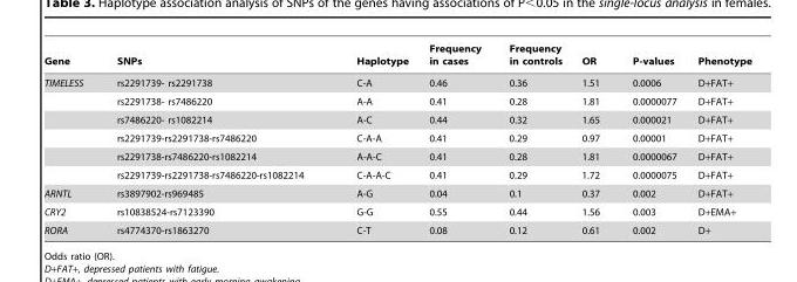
<table><thead><tr><td>Gene</td><td>SNPs</td><td>Haplotype</td><td>Frequency in cases</td><td>Frequency in controls</td><td>OR</td><td>P-values</td><td>Phenotype</td></tr></thead><tbody><tr><td rowspan="6">TIMELESS</td><td>rs2291739- rs2291738</td><td>C-A</td><td>0.46</td><td>0.36</td><td>1.51</td><td>0.0006</td><td>D+FAT+</td></tr><tr><td>rs2291738- rs7486220</td><td>A-A</td><td>0.41</td><td>0.28</td><td>1.81</td><td>0.0000077</td><td>D+FAT+</td></tr><tr><td>rs7486220- rs1082214</td><td>A-C</td><td>0.44</td><td>0.32</td><td>1.65</td><td>0.000021</td><td>D+FAT+</td></tr><tr><td>rs2291739-rs2291738-rs7486220</td><td>C-A-A</td><td>0.41</td><td>0.29</td><td>0.97</td><td>0.00001</td><td>D+FAT+</td></tr><tr><td>rs2291738-rs7486220-rs1082214</td><td>A-A-C</td><td>0.41</td><td>0.28</td><td>1.81</td><td>0.0000067</td><td>D+FAT+</td></tr><tr><td>rs2291739-rs2291738-rs7486220-rs1082214</td><td>C-A-A-C</td><td>0.41</td><td>0.29</td><td>1.72</td><td>0.0000075</td><td>D+FAT+</td></tr><tr><td>ARNTL</td><td>rs3897902-rs969485</td><td>A-G</td><td>0.04</td><td>0.1</td><td>0.37</td><td>0.002</td><td>D+FAT+</td></tr><tr><td>CRY2</td><td>rs10838524-rs7123390</td><td>G-G</td><td>0.55</td><td>0.44</td><td>1.56</td><td>0.003</td><td>D+EMA+</td></tr><tr><td>RORA</td><td>rs4774370-rs1863270</td><td>C-T</td><td>0.08</td><td>0.12</td><td>0.61</td><td>0.002</td><td>D+</td></tr></tbody></table>